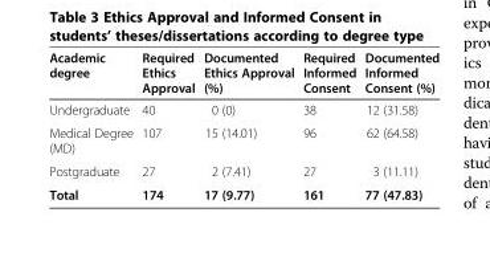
<table><thead><tr><td>Academic degree</td><td>Required Ethics Approval</td><td>Documented Ethics Approval (%)</td><td>Required Informed Consent</td><td>Documented Informed Consent (%)</td></tr></thead><tbody><tr><td>Undergraduate</td><td>40</td><td>0 (0)</td><td>38</td><td>12 (31.58)</td></tr><tr><td>Medical Degree (MD)</td><td>107</td><td>15 (14.01)</td><td>96</td><td>62 (64.58)</td></tr><tr><td>Postgraduate</td><td>27</td><td>2 (7.41)</td><td>27</td><td>3 (11.11)</td></tr><tr><td>Total</td><td>174</td><td>17 (9.77)</td><td>161</td><td>77 (47.83)</td></tr></tbody></table>